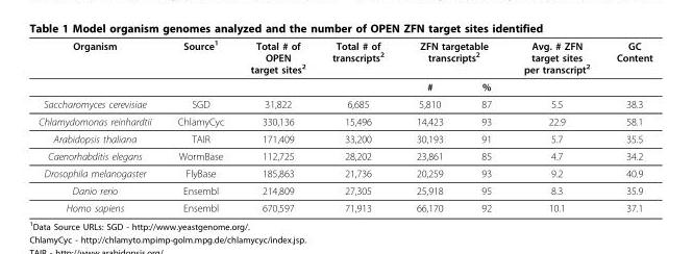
<table><thead><tr><td rowspan="2">Organism</td><td rowspan="2">Source<sup>1</sup></td><td rowspan="2">Total # of OPEN target sites<sup>2</sup></td><td rowspan="2">Total # of transcripts<sup>2</sup></td><td colspan="2">ZFN targetable transcripts<sup>2</sup></td><td rowspan="2">Avg. # ZFN target sites per transcript<sup>2</sup></td><td rowspan="2">GC Content</td></tr><tr><td>#</td><td>%</td></tr></thead><tbody><tr><td>Saccharomyces cerevisiae</td><td>SGD</td><td>31,822</td><td>6,685</td><td>5,810</td><td>87</td><td>5.5</td><td>38.3</td></tr><tr><td>Chlamydomonas reinhardtii</td><td>ChlamyCyc</td><td>330,136</td><td>15,496</td><td>14,423</td><td>93</td><td>22.9</td><td>58.1</td></tr><tr><td>Arabidopsis thaliana</td><td>TAIR</td><td>171,409</td><td>33,200</td><td>30,193</td><td>91</td><td>5.7</td><td>35.5</td></tr><tr><td>Caenorhabditis elegans</td><td>WormBase</td><td>112,725</td><td>28,202</td><td>23,861</td><td>85</td><td>4.7</td><td>34.2</td></tr><tr><td>Drosophila melanogaster</td><td>FlyBase</td><td>185,863</td><td>21,736</td><td>20,259</td><td>93</td><td>9.2</td><td>40.9</td></tr><tr><td>Danio rerio</td><td>Ensembl</td><td>214,809</td><td>27,305</td><td>25,918</td><td>95</td><td>8.3</td><td>35.9</td></tr><tr><td>Homo sapiens</td><td>Ensembl</td><td>670,597</td><td>71,913</td><td>66,170</td><td>92</td><td>10.1</td><td>37.1</td></tr></tbody></table>